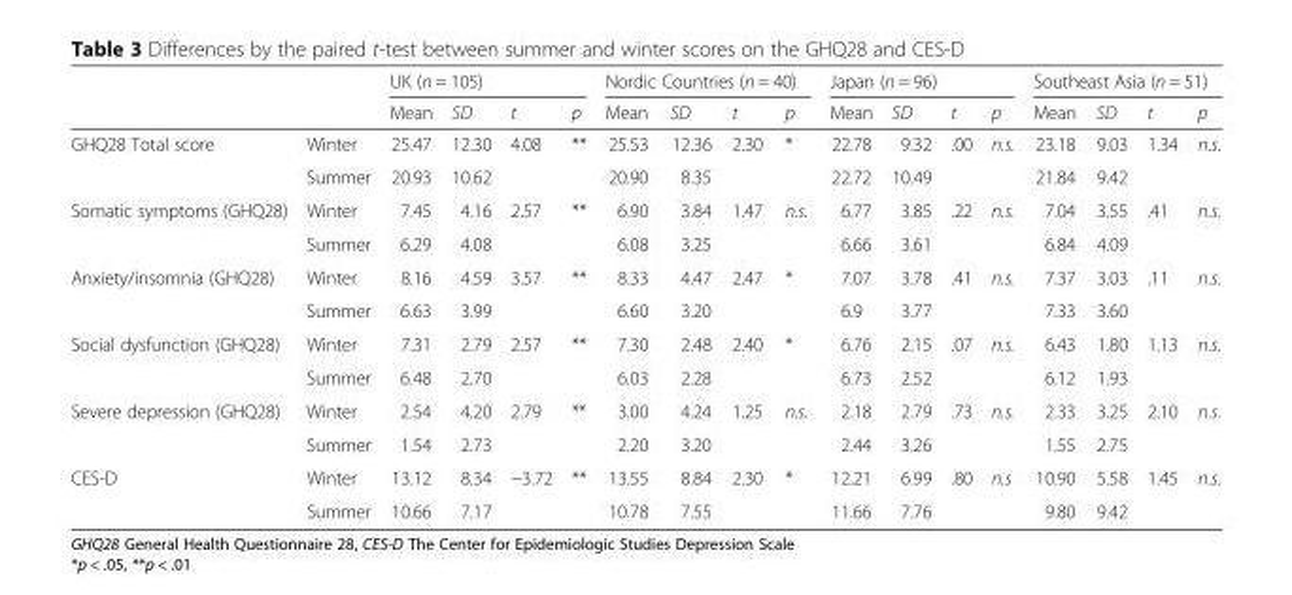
<table><thead><tr><td rowspan="2"></td><td rowspan="2"></td><td colspan="4">UK (n = 105)</td><td colspan="4">Nordic Countries (n = 40)</td><td colspan="4">Japan (n = 96)</td><td colspan="4">Southeast Asia (n = 51)</td></tr><tr><td>Mean</td><td>SD</td><td>t</td><td>p</td><td>Mean</td><td>SD</td><td>t</td><td>p</td><td>Mean</td><td>SD</td><td>t</td><td>p</td><td>Mean</td><td>SD</td><td>t</td><td>p</td></tr></thead><tbody><tr><td rowspan="2">GHQ28 Total score</td><td>Winter</td><td>25.47</td><td>12.30</td><td rowspan="2">4.08</td><td rowspan="2">**</td><td>25.53</td><td>12.36</td><td rowspan="2">2.30</td><td rowspan="2">*</td><td>22.78</td><td>9.32</td><td rowspan="2">.00</td><td rowspan="2">n.s.</td><td>23.18</td><td>9.03</td><td rowspan="2">1.34</td><td rowspan="2">n.s.</td></tr><tr><td>Summer</td><td>20.93</td><td>10.62</td><td>20.90</td><td>8.35</td><td>22.72</td><td>10.49</td><td>21.84</td><td>9.42</td></tr><tr><td rowspan="2">Somatic symptoms (GHQ28)</td><td>Winter</td><td>7.45</td><td>4.16</td><td rowspan="2">2.57</td><td rowspan="2">**</td><td>6.90</td><td>3.84</td><td rowspan="2">1.47</td><td rowspan="2">n.s.</td><td>6.77</td><td>3.85</td><td rowspan="2">.22</td><td rowspan="2">n.s.</td><td>7.04</td><td>3.55</td><td rowspan="2">.41</td><td rowspan="2">n.s.</td></tr><tr><td>Summer</td><td>6.29</td><td>4.08</td><td>6.08</td><td>3.25</td><td>6.66</td><td>3.61</td><td>6.84</td><td>4.09</td></tr><tr><td rowspan="2">Anxiety/insomnia (GHQ28)</td><td>Winter</td><td>8.16</td><td>4.59</td><td rowspan="2">3.57</td><td rowspan="2">**</td><td>8.33</td><td>4.47</td><td rowspan="2">2.47</td><td rowspan="2">*</td><td>7.07</td><td>3.78</td><td rowspan="2">.41</td><td rowspan="2">n.s.</td><td>7.37</td><td>3.03</td><td rowspan="2">.11</td><td rowspan="2">n.s.</td></tr><tr><td>Summer</td><td>6.63</td><td>3.99</td><td>6.60</td><td>3.20</td><td>6.9</td><td>3.77</td><td>7.33</td><td>3.60</td></tr><tr><td rowspan="2">Social dysfunction (GHQ28)</td><td>Winter</td><td>7.31</td><td>2.79</td><td rowspan="2">2.57</td><td rowspan="2">**</td><td>7.30</td><td>2.48</td><td rowspan="2">2.40</td><td rowspan="2">*</td><td>6.76</td><td>2.15</td><td rowspan="2">.07</td><td rowspan="2">n.s.</td><td>6.43</td><td>1.80</td><td rowspan="2">1.13</td><td rowspan="2">n.s.</td></tr><tr><td>Summer</td><td>6.48</td><td>2.70</td><td>6.03</td><td>2.28</td><td>6.73</td><td>2.52</td><td>6.12</td><td>1.93</td></tr><tr><td rowspan="2">Severe depression (GHQ28)</td><td>Winter</td><td>2.54</td><td>4.20</td><td rowspan="2">2.79</td><td rowspan="2">**</td><td>3.00</td><td>4.24</td><td rowspan="2">1.25</td><td rowspan="2">n.s.</td><td>2.18</td><td>2.79</td><td rowspan="2">.73</td><td rowspan="2">n.s.</td><td>2.33</td><td>3.25</td><td rowspan="2">2.10</td><td rowspan="2">n.s.</td></tr><tr><td>Summer</td><td>1.54</td><td>2.73</td><td>2.20</td><td>3.20</td><td>2.44</td><td>3.26</td><td>1.55</td><td>2.75</td></tr><tr><td rowspan="2">CES-D</td><td>Winter</td><td>13.12</td><td>8.34</td><td rowspan="2">−3.72</td><td rowspan="2">**</td><td>13.55</td><td>8.84</td><td rowspan="2">2.30</td><td rowspan="2">*</td><td>12.21</td><td>6.99</td><td rowspan="2">.80</td><td rowspan="2">n.s</td><td>10.90</td><td>5.58</td><td rowspan="2">1.45</td><td rowspan="2">n.s.</td></tr><tr><td>Summer</td><td>10.66</td><td>7.17</td><td>10.78</td><td>7.55</td><td>11.66</td><td>7.76</td><td>9.80</td><td>9.42</td></tr></tbody></table>